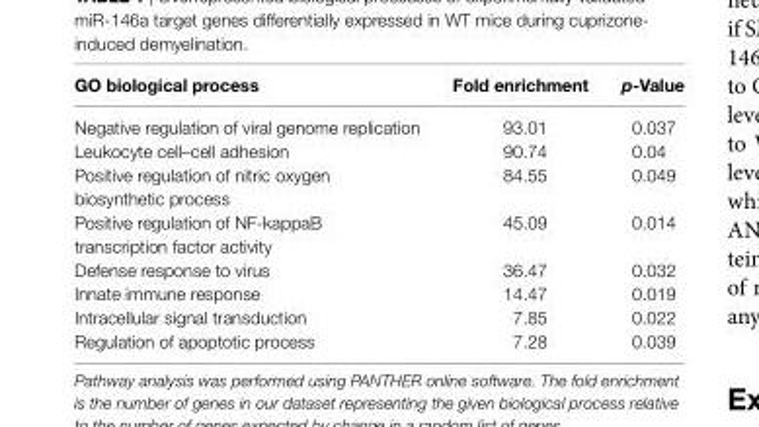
<table><thead><tr><td>gO biological process</td><td>Fold enrichment</td><td>p-Value</td></tr></thead><tbody><tr><td>Negative regulation of viral genome replication</td><td>93.01</td><td>0.037</td></tr><tr><td>Leukocyte cell–cell adhesion</td><td>90.74</td><td>0.04</td></tr><tr><td>Positive regulation of nitric oxygen biosynthetic process</td><td>84.55</td><td>0.049</td></tr><tr><td>Positive regulation of NF-kappaB transcription factor activity</td><td>45.09</td><td>0.014</td></tr><tr><td>Defense response to virus</td><td>36.47</td><td>0.032</td></tr><tr><td>Innate immune response</td><td>14.47</td><td>0.019</td></tr><tr><td>Intracellular signal transduction</td><td>7.85</td><td>0.022</td></tr><tr><td>Regulation of apoptotic process</td><td>7.28</td><td>0.039</td></tr></tbody></table>